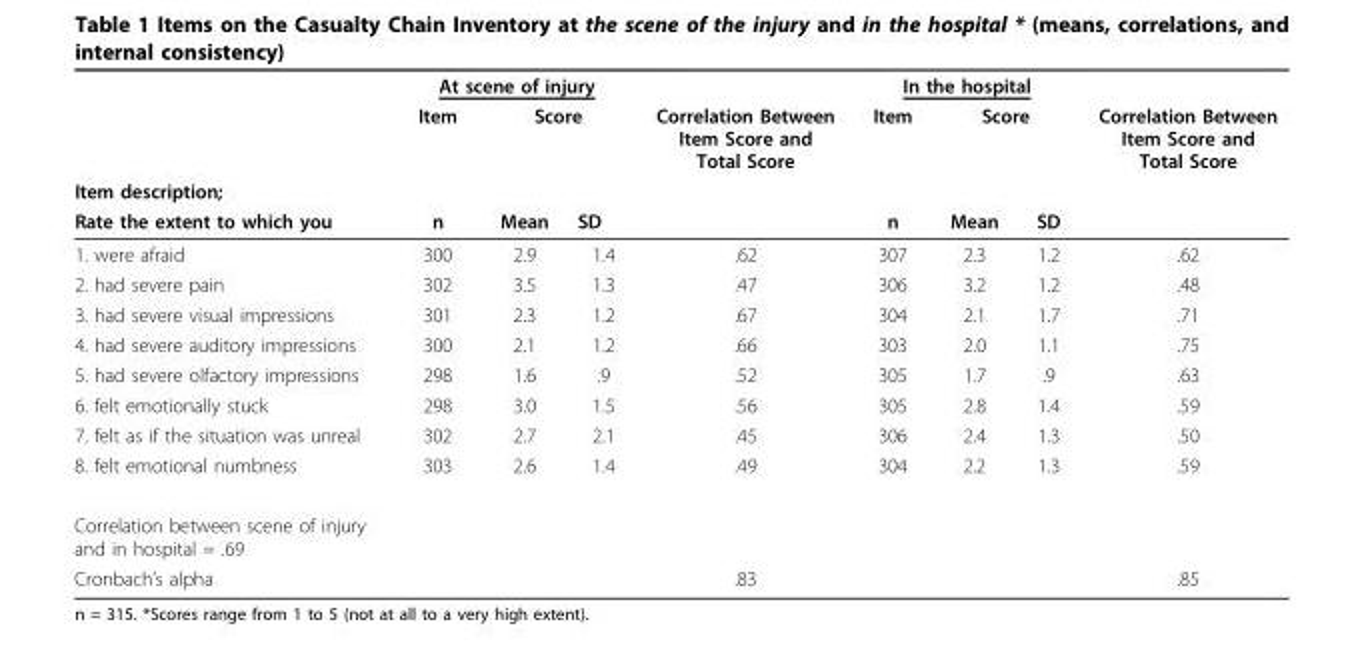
<table><thead><tr><td rowspan="3">Item description;</td><td colspan="3">At scene of injury</td><td rowspan="3">Correlation Between Item Score and Total Score</td><td colspan="3">In the hospital</td><td rowspan="3">Correlation Between Item Score and Total Score</td></tr><tr><td rowspan="2">Item</td><td colspan="2">Score</td><td rowspan="2">Item</td><td colspan="2">Score</td></tr><tr><td></td><td></td><td></td><td></td></tr></thead><tbody><tr><td>Rate the extent to which you</td><td>n</td><td>Mean</td><td>SD</td><td></td><td>n</td><td>Mean</td><td>SD</td><td></td></tr><tr><td>1. were afraid</td><td>300</td><td>2.9</td><td>1.4</td><td>.62</td><td>307</td><td>2.3</td><td>1.2</td><td>.62</td></tr><tr><td>2. had severe pain</td><td>302</td><td>3.5</td><td>1.3</td><td>.47</td><td>306</td><td>3.2</td><td>1.2</td><td>.48</td></tr><tr><td>3. had severe visual impressions</td><td>301</td><td>2.3</td><td>1.2</td><td>.67</td><td>304</td><td>2.1</td><td>1.7</td><td>.71</td></tr><tr><td>4. had severe auditory impressions</td><td>300</td><td>2.1</td><td>1.2</td><td>.66</td><td>303</td><td>2.0</td><td>1.1</td><td>.75</td></tr><tr><td>5. had severe olfactory impressions</td><td>298</td><td>1.6</td><td>.9</td><td>.52</td><td>305</td><td>1.7</td><td>.9</td><td>.63</td></tr><tr><td>6. felt emotionally stuck</td><td>298</td><td>3.0</td><td>1.5</td><td>.56</td><td>305</td><td>2.8</td><td>1.4</td><td>.59</td></tr><tr><td>7. felt as if the situation was unreal</td><td>302</td><td>2.7</td><td>2.1</td><td>.45</td><td>306</td><td>2.4</td><td>1.3</td><td>.50</td></tr><tr><td>8. felt emotional numbness</td><td>303</td><td>2.6</td><td>1.4</td><td>.49</td><td>304</td><td>2.2</td><td>1.3</td><td>.59</td></tr><tr><td colspan="9">Correlation between scene of injury and in hospital = .69</td></tr><tr><td>Cronbach’s alpha</td><td></td><td></td><td></td><td>.83</td><td></td><td></td><td></td><td>.85</td></tr></tbody></table>